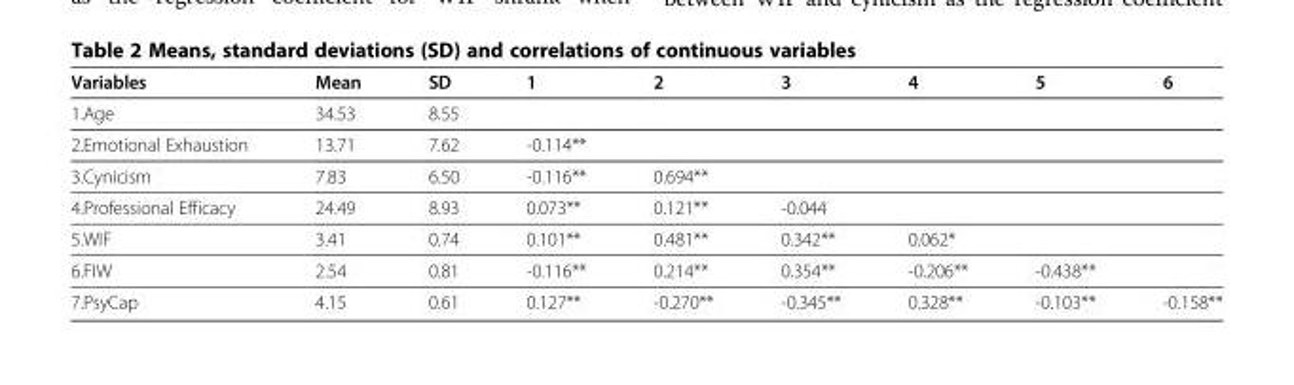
<table><thead><tr><td>Variables</td><td>Mean</td><td>SD</td><td>1</td><td>2</td><td>3</td><td>4</td><td>5</td><td>6</td></tr></thead><tbody><tr><td>1.Age</td><td>34.53</td><td>8.55</td><td></td><td></td><td></td><td></td><td></td><td></td></tr><tr><td>2.Emotional Exhaustion</td><td>13.71</td><td>7.62</td><td>-0.114**</td><td></td><td></td><td></td><td></td><td></td></tr><tr><td>3.Cynicism</td><td>7.83</td><td>6.50</td><td>-0.116**</td><td>0.694**</td><td></td><td></td><td></td><td></td></tr><tr><td>4.Professional Efficacy</td><td>24.49</td><td>8.93</td><td>0.073**</td><td>0.121**</td><td>-0.044</td><td></td><td></td><td></td></tr><tr><td>5.WIF</td><td>3.41</td><td>0.74</td><td>0.101**</td><td>0.481**</td><td>0.342**</td><td>0.062*</td><td></td><td></td></tr><tr><td>6.FIW</td><td>2.54</td><td>0.81</td><td>-0.116**</td><td>0.214**</td><td>0.354**</td><td>-0.206**</td><td>-0.438**</td><td></td></tr><tr><td>7.PsyCap</td><td>4.15</td><td>0.61</td><td>0.127**</td><td>-0.270**</td><td>-0.345**</td><td>0.328**</td><td>-0.103**</td><td>-0.158**</td></tr></tbody></table>